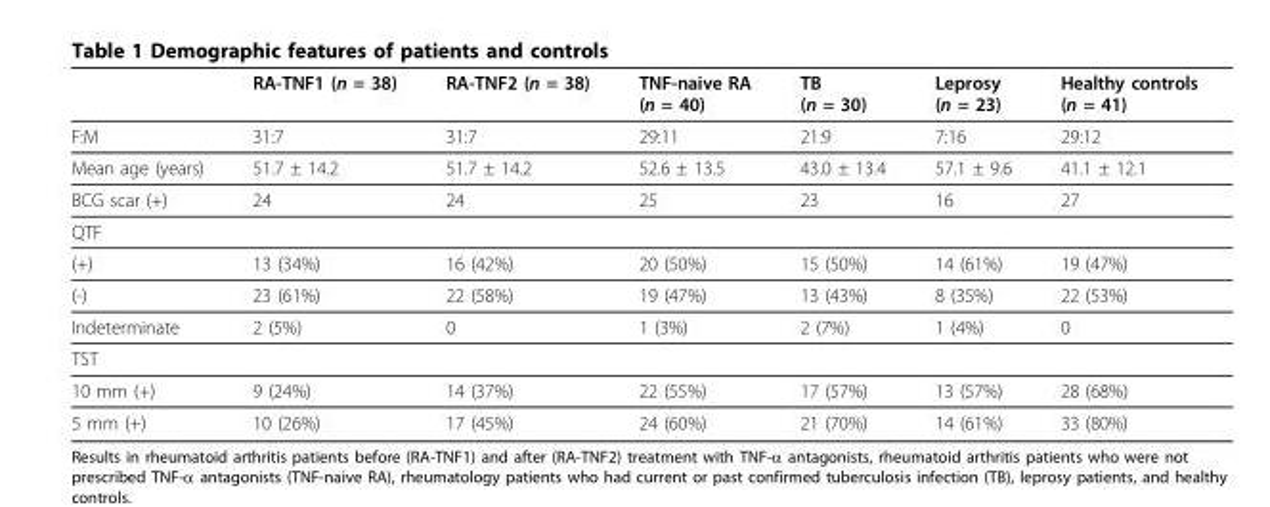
<table><thead><tr><td></td><td>RA-TNF1 (n = 38)</td><td>RA-TNF2 (n = 38)</td><td>TNF-naive RA (n = 40)</td><td>TB (n = 30)</td><td>Leprosy (n = 23)</td><td>Healthy controls (n = 41)</td></tr></thead><tbody><tr><td>F:M</td><td>31:7</td><td>31:7</td><td>29:11</td><td>21:9</td><td>7:16</td><td>29:12</td></tr><tr><td>Mean age (years)</td><td>51.7 ± 14.2</td><td>51.7 ± 14.2</td><td>52.6 ± 13.5</td><td>43.0 ± 13.4</td><td>57.1 ± 9.6</td><td>41.1 ± 12.1</td></tr><tr><td>BCG scar (+)</td><td>24</td><td>24</td><td>25</td><td>23</td><td>16</td><td>27</td></tr><tr><td colspan="7">QTF</td></tr><tr><td>(+)</td><td>13 (34%)</td><td>16 (42%)</td><td>20 (50%)</td><td>15 (50%)</td><td>14 (61%)</td><td>19 (47%)</td></tr><tr><td>(-)</td><td>23 (61%)</td><td>22 (58%)</td><td>19 (47%)</td><td>13 (43%)</td><td>8 (35%)</td><td>22 (53%)</td></tr><tr><td>Indeterminate</td><td>2 (5%)</td><td>0</td><td>1 (3%)</td><td>2 (7%)</td><td>1 (4%)</td><td>0</td></tr><tr><td colspan="7">TST</td></tr><tr><td>10 mm (+)</td><td>9 (24%)</td><td>14 (37%)</td><td>22 (55%)</td><td>17 (57%)</td><td>13 (57%)</td><td>28 (68%)</td></tr><tr><td>5 mm (+)</td><td>10 (26%)</td><td>17 (45%)</td><td>24 (60%)</td><td>21 (70%)</td><td>14 (61%)</td><td>33 (80%)</td></tr></tbody></table>